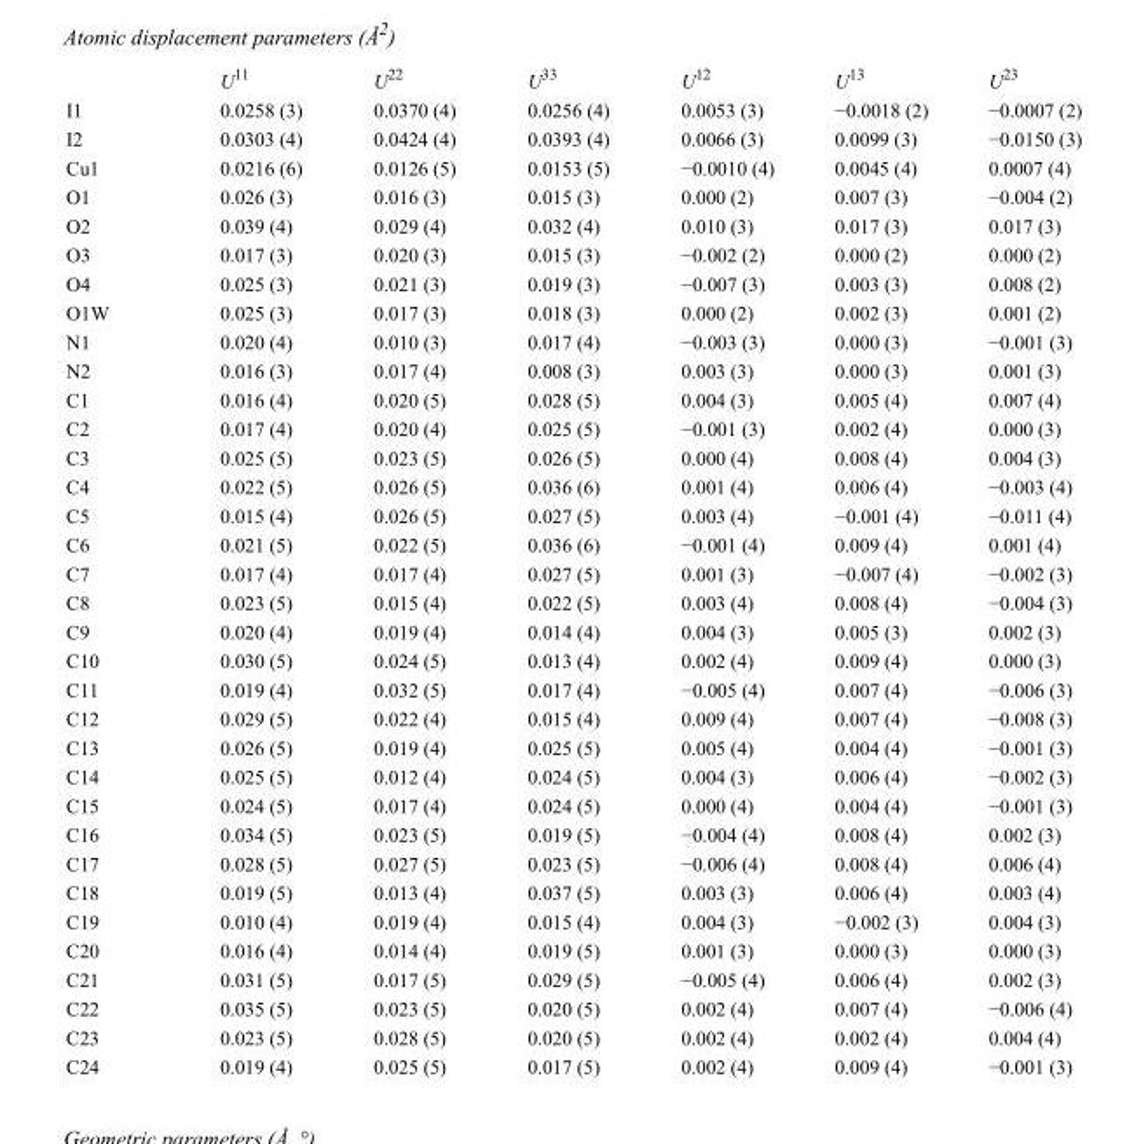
<table><thead><tr><td></td><td>U<sup>11</sup></td><td>U<sup>22</sup></td><td>U<sup>33</sup></td><td>U<sup>12</sup></td><td>U<sup>13</sup></td><td>U<sup>23</sup></td></tr></thead><tbody><tr><td>I1</td><td>0.0258 (3)</td><td>0.0370 (4)</td><td>0.0256 (4)</td><td>0.0053 (3)</td><td>−0.0018 (2)</td><td>−0.0007 (2)</td></tr><tr><td>I2</td><td>0.0303 (4)</td><td>0.0424 (4)</td><td>0.0393 (4)</td><td>0.0066 (3)</td><td>0.0099 (3)</td><td>−0.0150 (3)</td></tr><tr><td>Cu1</td><td>0.0216 (6)</td><td>0.0126 (5)</td><td>0.0153 (5)</td><td>−0.0010 (4)</td><td>0.0045 (4)</td><td>0.0007 (4)</td></tr><tr><td>O1</td><td>0.026 (3)</td><td>0.016 (3)</td><td>0.015 (3)</td><td>0.000 (2)</td><td>0.007 (3)</td><td>−0.004 (2)</td></tr><tr><td>O2</td><td>0.039 (4)</td><td>0.029 (4)</td><td>0.032 (4)</td><td>0.010 (3)</td><td>0.017 (3)</td><td>0.017 (3)</td></tr><tr><td>O3</td><td>0.017 (3)</td><td>0.020 (3)</td><td>0.015 (3)</td><td>−0.002 (2)</td><td>0.000 (2)</td><td>0.000 (2)</td></tr><tr><td>O4</td><td>0.025 (3)</td><td>0.021 (3)</td><td>0.019 (3)</td><td>−0.007 (3)</td><td>0.003 (3)</td><td>0.008 (2)</td></tr><tr><td>O1W</td><td>0.025 (3)</td><td>0.017 (3)</td><td>0.018 (3)</td><td>0.000 (2)</td><td>0.002 (3)</td><td>0.001 (2)</td></tr><tr><td>N1</td><td>0.020 (4)</td><td>0.010 (3)</td><td>0.017 (4)</td><td>−0.003 (3)</td><td>0.000 (3)</td><td>−0.001 (3)</td></tr><tr><td>N2</td><td>0.016 (3)</td><td>0.017 (4)</td><td>0.008 (3)</td><td>0.003 (3)</td><td>0.000 (3)</td><td>0.001 (3)</td></tr><tr><td>C1</td><td>0.016 (4)</td><td>0.020 (5)</td><td>0.028 (5)</td><td>0.004 (3)</td><td>0.005 (4)</td><td>0.007 (4)</td></tr><tr><td>C2</td><td>0.017 (4)</td><td>0.020 (4)</td><td>0.025 (5)</td><td>−0.001 (3)</td><td>0.002 (4)</td><td>0.000 (3)</td></tr><tr><td>C3</td><td>0.025 (5)</td><td>0.023 (5)</td><td>0.026 (5)</td><td>0.000 (4)</td><td>0.008 (4)</td><td>0.004 (3)</td></tr><tr><td>C4</td><td>0.022 (5)</td><td>0.026 (5)</td><td>0.036 (6)</td><td>0.001 (4)</td><td>0.006 (4)</td><td>−0.003 (4)</td></tr><tr><td>C5</td><td>0.015 (4)</td><td>0.026 (5)</td><td>0.027 (5)</td><td>0.003 (4)</td><td>−0.001 (4)</td><td>−0.011 (4)</td></tr><tr><td>C6</td><td>0.021 (5)</td><td>0.022 (5)</td><td>0.036 (6)</td><td>−0.001 (4)</td><td>0.009 (4)</td><td>0.001 (4)</td></tr><tr><td>C7</td><td>0.017 (4)</td><td>0.017 (4)</td><td>0.027 (5)</td><td>0.001 (3)</td><td>−0.007 (4)</td><td>−0.002 (3)</td></tr><tr><td>C8</td><td>0.023 (5)</td><td>0.015 (4)</td><td>0.022 (5)</td><td>0.003 (4)</td><td>0.008 (4)</td><td>−0.004 (3)</td></tr><tr><td>C9</td><td>0.020 (4)</td><td>0.019 (4)</td><td>0.014 (4)</td><td>0.004 (3)</td><td>0.005 (3)</td><td>0.002 (3)</td></tr><tr><td>C10</td><td>0.030 (5)</td><td>0.024 (5)</td><td>0.013 (4)</td><td>0.002 (4)</td><td>0.009 (4)</td><td>0.000 (3)</td></tr><tr><td>C11</td><td>0.019 (4)</td><td>0.032 (5)</td><td>0.017 (4)</td><td>−0.005 (4)</td><td>0.007 (4)</td><td>−0.006 (3)</td></tr><tr><td>C12</td><td>0.029 (5)</td><td>0.022 (4)</td><td>0.015 (4)</td><td>0.009 (4)</td><td>0.007 (4)</td><td>−0.008 (3)</td></tr><tr><td>C13</td><td>0.026 (5)</td><td>0.019 (4)</td><td>0.025 (5)</td><td>0.005 (4)</td><td>0.004 (4)</td><td>−0.001 (3)</td></tr><tr><td>C14</td><td>0.025 (5)</td><td>0.012 (4)</td><td>0.024 (5)</td><td>0.004 (3)</td><td>0.006 (4)</td><td>−0.002 (3)</td></tr><tr><td>C15</td><td>0.024 (5)</td><td>0.017 (4)</td><td>0.024 (5)</td><td>0.000 (4)</td><td>0.004 (4)</td><td>−0.001 (3)</td></tr><tr><td>C16</td><td>0.034 (5)</td><td>0.023 (5)</td><td>0.019 (5)</td><td>−0.004 (4)</td><td>0.008 (4)</td><td>0.002 (3)</td></tr><tr><td>C17</td><td>0.028 (5)</td><td>0.027 (5)</td><td>0.023 (5)</td><td>−0.006 (4)</td><td>0.008 (4)</td><td>0.006 (4)</td></tr><tr><td>C18</td><td>0.019 (5)</td><td>0.013 (4)</td><td>0.037 (5)</td><td>0.003 (3)</td><td>0.006 (4)</td><td>0.003 (4)</td></tr><tr><td>C19</td><td>0.010 (4)</td><td>0.019 (4)</td><td>0.015 (4)</td><td>0.004 (3)</td><td>−0.002 (3)</td><td>0.004 (3)</td></tr><tr><td>C20</td><td>0.016 (4)</td><td>0.014 (4)</td><td>0.019 (5)</td><td>0.001 (3)</td><td>0.000 (3)</td><td>0.000 (3)</td></tr><tr><td>C21</td><td>0.031 (5)</td><td>0.017 (5)</td><td>0.029 (5)</td><td>−0.005 (4)</td><td>0.006 (4)</td><td>0.002 (3)</td></tr><tr><td>C22</td><td>0.035 (5)</td><td>0.023 (5)</td><td>0.020 (5)</td><td>0.002 (4)</td><td>0.007 (4)</td><td>−0.006 (4)</td></tr><tr><td>C23</td><td>0.023 (5)</td><td>0.028 (5)</td><td>0.020 (5)</td><td>0.002 (4)</td><td>0.002 (4)</td><td>0.004 (4)</td></tr><tr><td>C24</td><td>0.019 (4)</td><td>0.025 (5)</td><td>0.017 (5)</td><td>0.002 (4)</td><td>0.009 (4)</td><td>−0.001 (3)</td></tr></tbody></table>